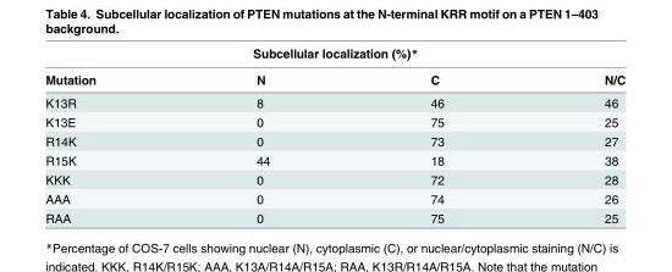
<table><thead><tr><td colspan="4">Subcellular localization (%)*</td></tr><tr><td>Mutation</td><td>N</td><td>C</td><td>N/C</td></tr></thead><tbody><tr><td>K13R</td><td>8</td><td>46</td><td>46</td></tr><tr><td>K13E</td><td>0</td><td>75</td><td>25</td></tr><tr><td>R14K</td><td>0</td><td>73</td><td>27</td></tr><tr><td>R15K</td><td>44</td><td>18</td><td>38</td></tr><tr><td>KKK</td><td>0</td><td>72</td><td>28</td></tr><tr><td>AAA</td><td>0</td><td>74</td><td>26</td></tr><tr><td>RAA</td><td>0</td><td>75</td><td>25</td></tr></tbody></table>